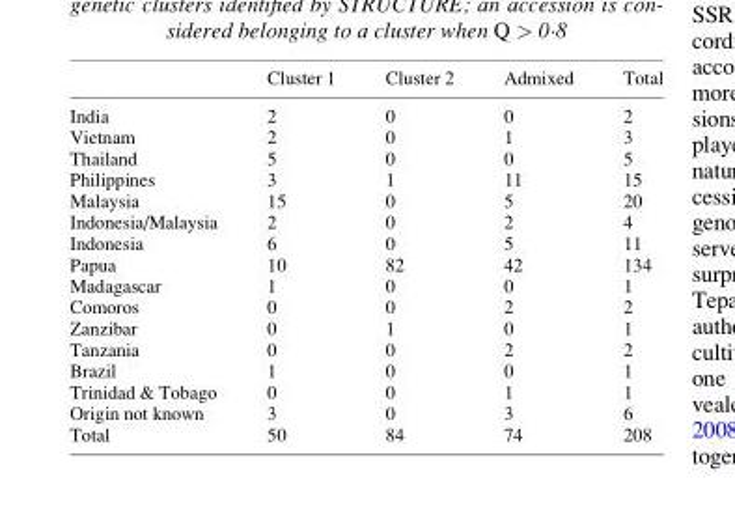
<table><thead><tr><td></td><td>Cluster 1</td><td>Cluster 2</td><td>Admixed</td><td>Total</td></tr></thead><tbody><tr><td>India</td><td>2</td><td>0</td><td>0</td><td>2</td></tr><tr><td>Vietnam</td><td>2</td><td>0</td><td>1</td><td>3</td></tr><tr><td>Thailand</td><td>5</td><td>0</td><td>0</td><td>5</td></tr><tr><td>Philippines</td><td>3</td><td>1</td><td>11</td><td>15</td></tr><tr><td>Malaysia</td><td>15</td><td>0</td><td>5</td><td>20</td></tr><tr><td>Indonesia/Malaysia</td><td>2</td><td>0</td><td>2</td><td>4</td></tr><tr><td>Indonesia</td><td>6</td><td>0</td><td>5</td><td>11</td></tr><tr><td>Papua</td><td>10</td><td>82</td><td>42</td><td>134</td></tr><tr><td>Madagascar</td><td>1</td><td>0</td><td>0</td><td>1</td></tr><tr><td>Comoros</td><td>0</td><td>0</td><td>2</td><td>2</td></tr><tr><td>Zanzibar</td><td>0</td><td>1</td><td>0</td><td>1</td></tr><tr><td>Tanzania</td><td>0</td><td>0</td><td>2</td><td>2</td></tr><tr><td>Brazil</td><td>1</td><td>0</td><td>0</td><td>1</td></tr><tr><td>Trinidad &amp; Tobago</td><td>0</td><td>0</td><td>1</td><td>1</td></tr><tr><td>Origin not known</td><td>3</td><td>0</td><td>3</td><td>6</td></tr><tr><td>Total</td><td>50</td><td>84</td><td>74</td><td>208</td></tr></tbody></table>